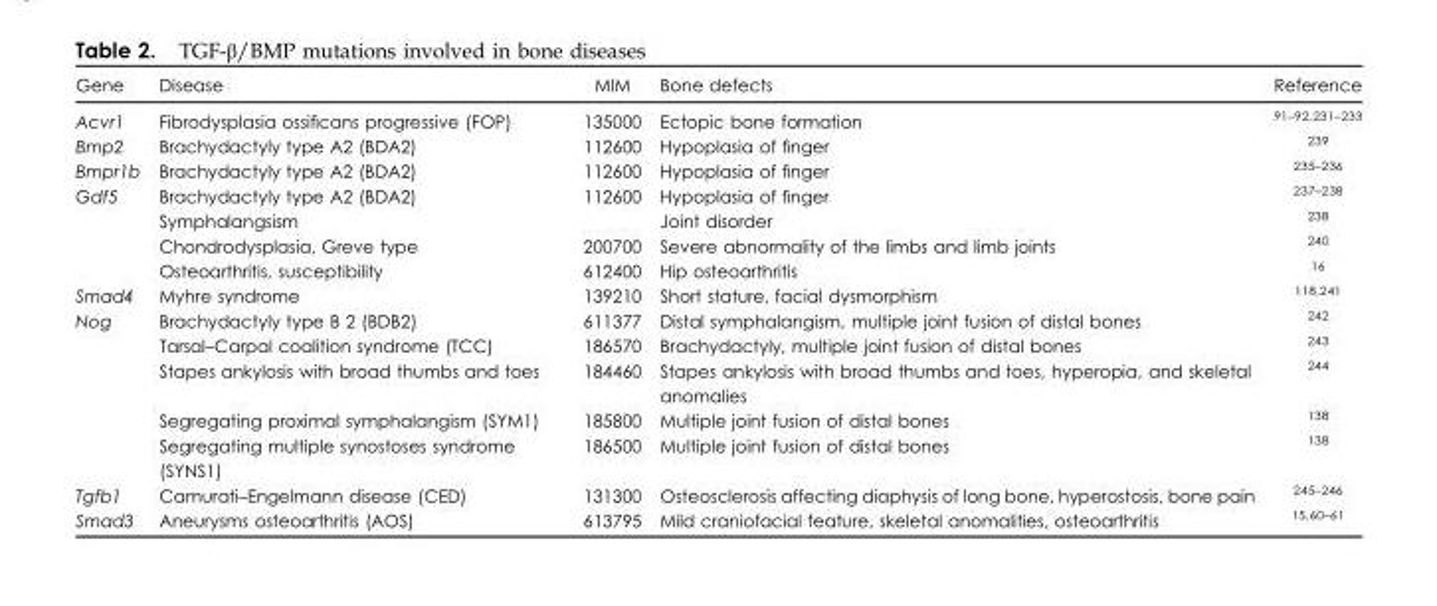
<table><thead><tr><td>Gene</td><td>Disease</td><td>MIM</td><td>Bone defects</td><td>Reference</td></tr></thead><tbody><tr><td>Acvr1</td><td>Fibrodysplasia ossificans progressive (FOP)</td><td>135000</td><td>Ectopic bone formation</td><td>91–92,231–233</td></tr><tr><td>Bmp2</td><td>Brachydactyly type A2 (BDA2)</td><td>112600</td><td>Hypoplasia of finger</td><td><sup>239</sup></td></tr><tr><td>Bmpr1b</td><td>Brachydactyly type A2 (BDA2)</td><td>112600</td><td>Hypoplasia of finger</td><td>235–236</td></tr><tr><td rowspan="4">Gdf5</td><td>Brachydactyly type A2 (BDA2)</td><td>112600</td><td>Hypoplasia of finger</td><td>237–238</td></tr><tr><td>Symphalangsism</td><td></td><td>Joint disorder</td><td><sup>238</sup></td></tr><tr><td>Chondrodysplasia, Greve type</td><td>200700</td><td>Severe abnormality of the limbs and limb joints</td><td><sup>240</sup></td></tr><tr><td>Osteoarthritis, susceptibility</td><td>612400</td><td>Hip osteoarthritis</td><td><sup>16</sup></td></tr><tr><td>Smad4</td><td>Myhre syndrome</td><td>139210</td><td>Short stature, facial dysmorphism</td><td><sup>118,241</sup></td></tr><tr><td rowspan="5">Nog</td><td>Brachydactyly type B 2 (BDB2)</td><td>611377</td><td>Distal symphalangism, multiple joint fusion of distal bones</td><td><sup>242</sup></td></tr><tr><td>Tarsal–Carpal coalition syndrome (TCC)</td><td>186570</td><td>Brachydactyly, multiple joint fusion of distal bones</td><td><sup>243</sup></td></tr><tr><td>Stapes ankylosis with broad thumbs and toes</td><td>184460</td><td>Stapes ankylosis with broad thumbs and toes, hyperopia, and skeletal anomalies</td><td><sup>244</sup></td></tr><tr><td>Segregating proximal symphalangism (SYM1)</td><td>185800</td><td>Multiple joint fusion of distal bones</td><td><sup>138</sup></td></tr><tr><td>Segregating multiple synostoses syndrome (SYNS1)</td><td>186500</td><td>Multiple joint fusion of distal bones</td><td><sup>138</sup></td></tr><tr><td>Tgfb1</td><td>Camurati–Engelmann disease (CED)</td><td>131300</td><td>Osteosclerosis affecting diaphysis of long bone, hyperostosis, bone pain</td><td>245–246</td></tr><tr><td>Smad3</td><td>Aneurysms osteoarthritis (AOS)</td><td>613795</td><td>Mild craniofacial feature, skeletal anomalities, osteoarthritis</td><td>15,60–61</td></tr></tbody></table>